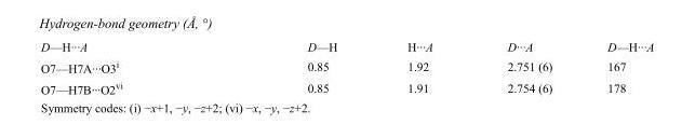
<table><tbody><tr><td>D—H···A</td><td>D—H</td><td>H···A</td><td>D···A</td><td>D—H···A</td></tr><tr><td>O7—H7A···O3<sup>i</sup></td><td>0.85</td><td>1.92</td><td>2.751 (6)</td><td>167</td></tr><tr><td>O7—H7B···O2<sup>vi</sup></td><td>0.85</td><td>1.91</td><td>2.754 (6)</td><td>178</td></tr></tbody></table>